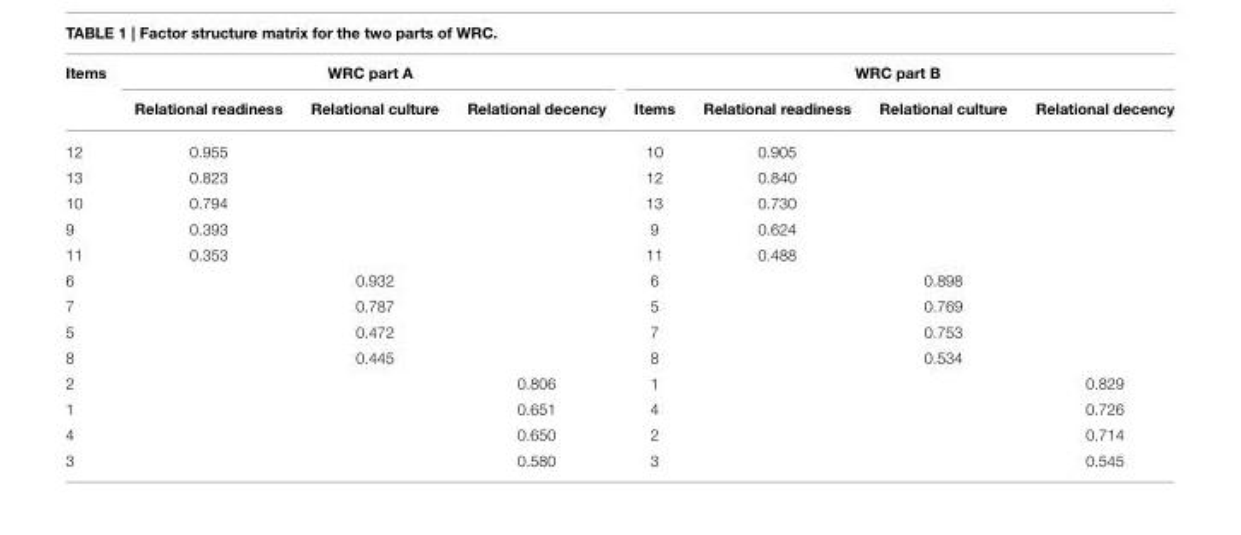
<table><thead><tr><td rowspan="2">Items</td><td colspan="3">WRC part A</td><td colspan="4">WRC part B</td></tr><tr><td>Relational readiness</td><td>Relational culture</td><td>Relational decency</td><td>Items</td><td>Relational readiness</td><td>Relational culture</td><td>Relational decency</td></tr></thead><tbody><tr><td>12</td><td>0.955</td><td></td><td></td><td>10</td><td>0.905</td><td></td><td></td></tr><tr><td>13</td><td>0.823</td><td></td><td></td><td>12</td><td>0.840</td><td></td><td></td></tr><tr><td>10</td><td>0.794</td><td></td><td></td><td>13</td><td>0.730</td><td></td><td></td></tr><tr><td>9</td><td>0.393</td><td></td><td></td><td>9</td><td>0.624</td><td></td><td></td></tr><tr><td>11</td><td>0.353</td><td></td><td></td><td>11</td><td>0.488</td><td></td><td></td></tr><tr><td>6</td><td></td><td>0.932</td><td></td><td>6</td><td></td><td>0.898</td><td></td></tr><tr><td>7</td><td></td><td>0.787</td><td></td><td>5</td><td></td><td>0.769</td><td></td></tr><tr><td>5</td><td></td><td>0.472</td><td></td><td>7</td><td></td><td>0.753</td><td></td></tr><tr><td>8</td><td></td><td>0.445</td><td></td><td>8</td><td></td><td>0.534</td><td></td></tr><tr><td>2</td><td></td><td></td><td>0.806</td><td>1</td><td></td><td></td><td>0.829</td></tr><tr><td>1</td><td></td><td></td><td>0.651</td><td>4</td><td></td><td></td><td>0.726</td></tr><tr><td>4</td><td></td><td></td><td>0.650</td><td>2</td><td></td><td></td><td>0.714</td></tr><tr><td>3</td><td></td><td></td><td>0.580</td><td>3</td><td></td><td></td><td>0.545</td></tr></tbody></table>